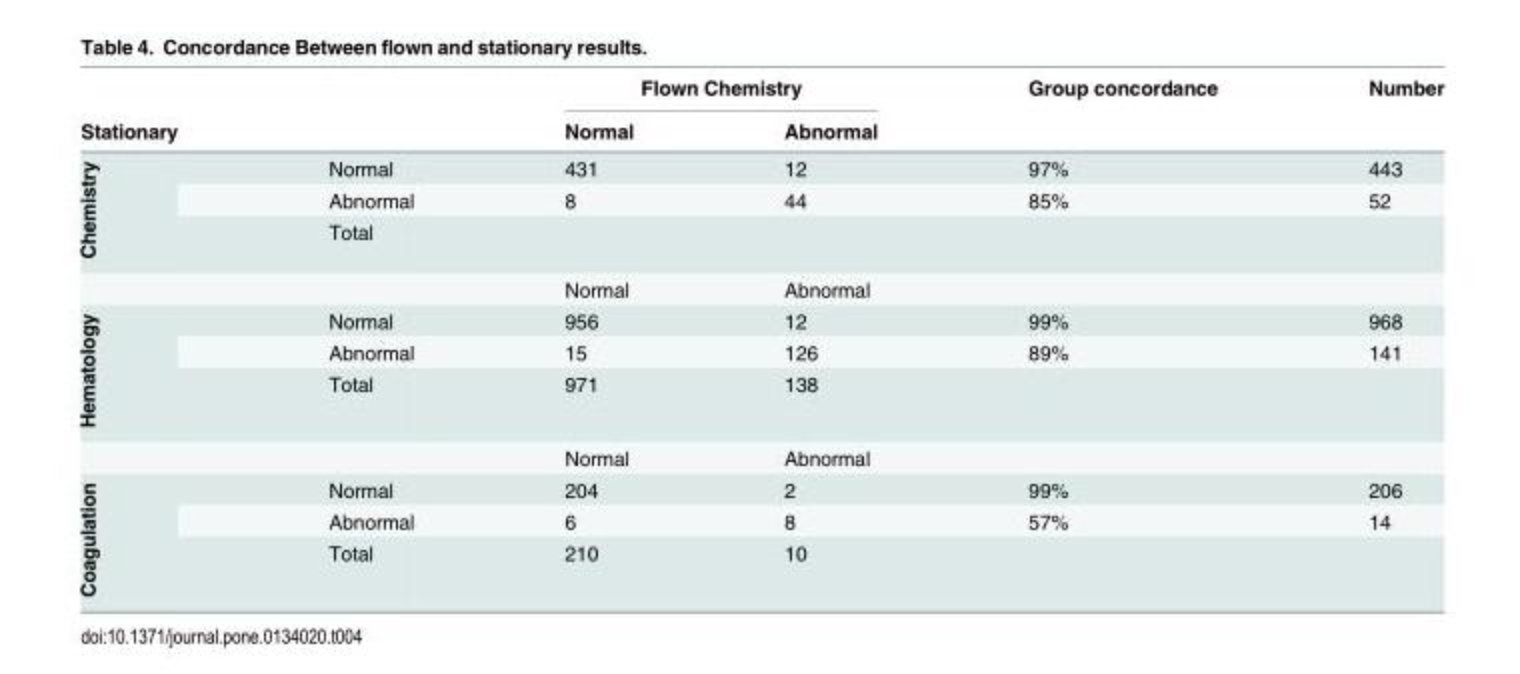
<table><thead><tr><td rowspan="2">Stationary</td><td rowspan="2"></td><td colspan="2">Flown Chemistry</td><td rowspan="2">Group concordance</td><td rowspan="2">Number</td></tr><tr><td>Normal</td><td>Abnormal</td></tr></thead><tbody><tr><td rowspan="4">Chemistry</td><td>Normal</td><td>431</td><td>12</td><td>97%</td><td>443</td></tr><tr><td>Abnormal</td><td>8</td><td>44</td><td>85%</td><td>52</td></tr><tr><td>Total</td><td></td><td></td><td></td><td></td></tr><tr><td></td><td>Normal</td><td>Abnormal</td><td></td><td></td></tr><tr><td rowspan="4">Hematology</td><td>Normal</td><td>956</td><td>12</td><td>99%</td><td>968</td></tr><tr><td>Abnormal</td><td>15</td><td>126</td><td>89%</td><td>141</td></tr><tr><td>Total</td><td>971</td><td>138</td><td></td><td></td></tr><tr><td></td><td>Normal</td><td>Abnormal</td><td></td><td></td></tr><tr><td rowspan="3">Coagulation</td><td>Normal</td><td>204</td><td>2</td><td>99%</td><td>206</td></tr><tr><td>Abnormal</td><td>6</td><td>8</td><td>57%</td><td>14</td></tr><tr><td>Total</td><td>210</td><td>10</td><td></td><td></td></tr></tbody></table>